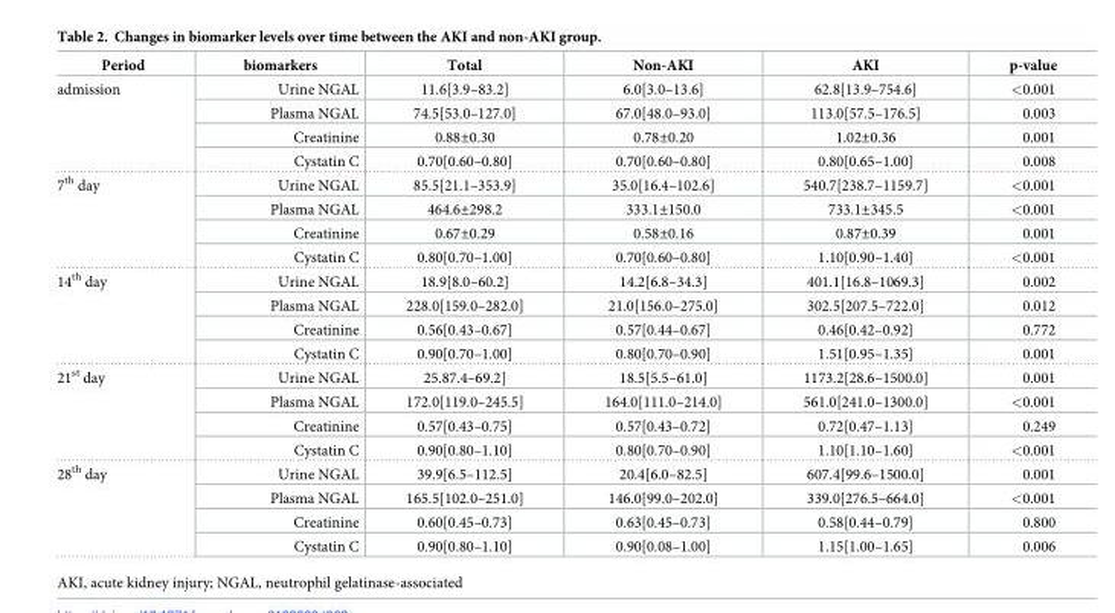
<table><thead><tr><td>Period</td><td>biomarkers</td><td>Total</td><td>Non-AKI</td><td>AKI</td><td>p-value</td></tr></thead><tbody><tr><td rowspan="4">admission</td><td>Urine NGAL</td><td>11.6[3.9–83.2]</td><td>6.0[3.0–13.6]</td><td>62.8[13.9–754.6]</td><td>&lt;0.001</td></tr><tr><td>Plasma NGAL</td><td>74.5[53.0–127.0]</td><td>67.0[48.0–93.0]</td><td>113.0[57.5–176.5]</td><td>0.003</td></tr><tr><td>Creatinine</td><td>0.88±0.30</td><td>0.78±0.20</td><td>1.02±0.36</td><td>0.001</td></tr><tr><td>Cystatin C</td><td>0.70[0.60–0.80]</td><td>0.70[0.60–0.80]</td><td>0.80[0.65–1.00]</td><td>0.008</td></tr><tr><td rowspan="4">7<sup>th</sup> day</td><td>Urine NGAL</td><td>85.5[21.1–353.9]</td><td>35.0[16.4–102.6]</td><td>540.7[238.7–1159.7]</td><td>&lt;0.001</td></tr><tr><td>Plasma NGAL</td><td>464.6±298.2</td><td>333.1±150.0</td><td>733.1±345.5</td><td>&lt;0.001</td></tr><tr><td>Creatinine</td><td>0.67±0.29</td><td>0.58±0.16</td><td>0.87±0.39</td><td>0.001</td></tr><tr><td>Cystatin C</td><td>0.80[0.70–1.00]</td><td>0.70[0.60–0.80]</td><td>1.10[0.90–1.40]</td><td>&lt;0.001</td></tr><tr><td rowspan="4">14<sup>th</sup> day</td><td>Urine NGAL</td><td>18.9[8.0–60.2]</td><td>14.2[6.8–34.3]</td><td>401.1[16.8–1069.3]</td><td>0.002</td></tr><tr><td>Plasma NGAL</td><td>228.0[159.0–282.0]</td><td>21.0[156.0–275.0]</td><td>302.5[207.5–722.0]</td><td>0.012</td></tr><tr><td>Creatinine</td><td>0.56[0.43–0.67]</td><td>0.57[0.44–0.67]</td><td>0.46[0.42–0.92]</td><td>0.772</td></tr><tr><td>Cystatin C</td><td>0.90[0.70–1.00]</td><td>0.80[0.70–0.90]</td><td>1.51[0.95–1.35]</td><td>0.001</td></tr><tr><td rowspan="4">21<sup>st</sup> day</td><td>Urine NGAL</td><td>25.87.4–69.2]</td><td>18.5[5.5–61.0]</td><td>1173.2[28.6–1500.0]</td><td>0.001</td></tr><tr><td>Plasma NGAL</td><td>172.0[119.0–245.5]</td><td>164.0[111.0–214.0]</td><td>561.0[241.0–1300.0]</td><td>&lt;0.001</td></tr><tr><td>Creatinine</td><td>0.57[0.43–0.75]</td><td>0.57[0.43–0.72]</td><td>0.72[0.47–1.13]</td><td>0.249</td></tr><tr><td>Cystatin C</td><td>0.90[0.80–1.10]</td><td>0.80[0.70–0.90]</td><td>1.10[1.10–1.60]</td><td>&lt;0.001</td></tr><tr><td rowspan="4">28<sup>th</sup> day</td><td>Urine NGAL</td><td>39.9[6.5–112.5]</td><td>20.4[6.0–82.5]</td><td>607.4[99.6–1500.0]</td><td>0.001</td></tr><tr><td>Plasma NGAL</td><td>165.5[102.0–251.0]</td><td>146.0[99.0–202.0]</td><td>339.0[276.5–664.0]</td><td>&lt;0.001</td></tr><tr><td>Creatinine</td><td>0.60[0.45–0.73]</td><td>0.63[0.45–0.73]</td><td>0.58[0.44–0.79]</td><td>0.800</td></tr><tr><td>Cystatin C</td><td>0.90[0.80–1.10]</td><td>0.90[0.08–1.00]</td><td>1.15[1.00–1.65]</td><td>0.006</td></tr></tbody></table>